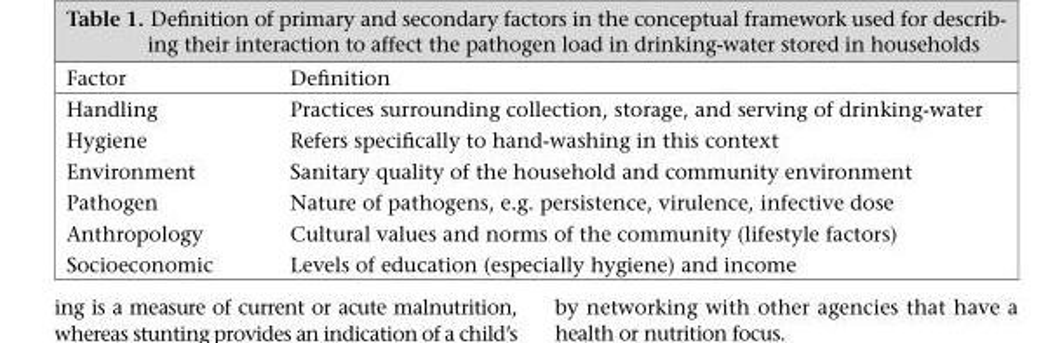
<table><thead><tr><td>Factor</td><td>Definition</td></tr></thead><tbody><tr><td>Handling</td><td>Practices surrounding collection, storage, and serving of drinking-water</td></tr><tr><td>Hygiene</td><td>Refers specifically to hand-washing in this context</td></tr><tr><td>Environment</td><td>Sanitary quality of the household and community environment</td></tr><tr><td>Pathogen</td><td>Nature of pathogens, e.g. persistence, virulence, infective dose</td></tr><tr><td>Anthropology</td><td>Cultural values and norms of the community (lifestyle factors)</td></tr><tr><td>Socioeconomic</td><td>Levels of education (especially hygiene) and income</td></tr></tbody></table>